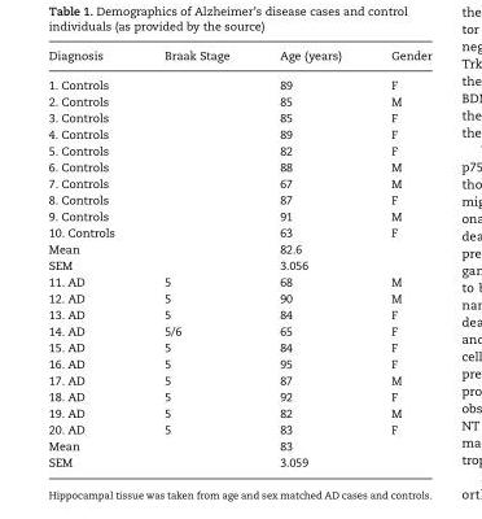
<table><thead><tr><td>Diagnosis</td><td>Braak Stage</td><td>Age (years)</td><td>Gender</td></tr></thead><tbody><tr><td>1. Controls</td><td></td><td>89</td><td>F</td></tr><tr><td>2. Controls</td><td></td><td>85</td><td>M</td></tr><tr><td>3. Controls</td><td></td><td>85</td><td>F</td></tr><tr><td>4. Controls</td><td></td><td>89</td><td>F</td></tr><tr><td>5. Controls</td><td></td><td>82</td><td>F</td></tr><tr><td>6. Controls</td><td></td><td>88</td><td>M</td></tr><tr><td>7. Controls</td><td></td><td>67</td><td>M</td></tr><tr><td>8. Controls</td><td></td><td>87</td><td>F</td></tr><tr><td>9. Controls</td><td></td><td>91</td><td>M</td></tr><tr><td>10. Controls</td><td></td><td>63</td><td>F</td></tr><tr><td>Mean</td><td></td><td>82.6</td><td></td></tr><tr><td>SEM</td><td></td><td>3.056</td><td></td></tr><tr><td>11. AD</td><td>5</td><td>68</td><td>M</td></tr><tr><td>12. AD</td><td>5</td><td>90</td><td>M</td></tr><tr><td>13. AD</td><td>5</td><td>84</td><td>F</td></tr><tr><td>14. AD</td><td>5/6</td><td>65</td><td>F</td></tr><tr><td>15. AD</td><td>5</td><td>84</td><td>F</td></tr><tr><td>16. AD</td><td>5</td><td>95</td><td>F</td></tr><tr><td>17. AD</td><td>5</td><td>87</td><td>M</td></tr><tr><td>18. AD</td><td>5</td><td>92</td><td>F</td></tr><tr><td>19. AD</td><td>5</td><td>82</td><td>M</td></tr><tr><td>20. AD</td><td>5</td><td>83</td><td>F</td></tr><tr><td>Mean</td><td></td><td>83</td><td></td></tr><tr><td>SEM</td><td></td><td>3.059</td><td></td></tr></tbody></table>